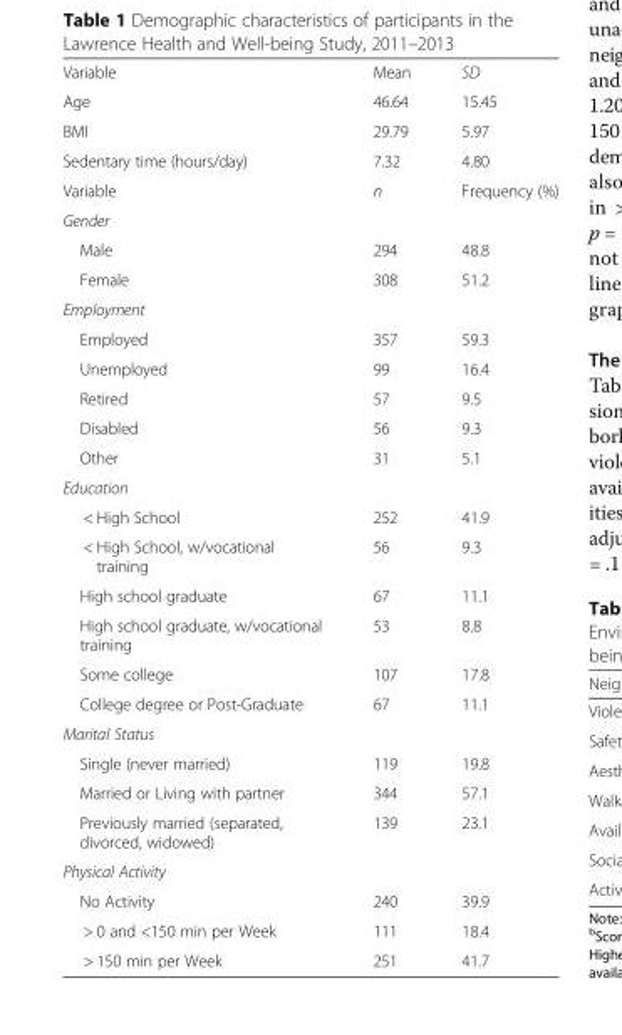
<table><tbody><tr><td>Variable</td><td>Mean</td><td>SD</td></tr><tr><td>Age</td><td>46.64</td><td>15.45</td></tr><tr><td>BMI</td><td>29.79</td><td>5.97</td></tr><tr><td>Sedentary time (hours/day)</td><td>7.32</td><td>4.80</td></tr><tr><td>Variable</td><td>n</td><td>Frequency (%)</td></tr><tr><td colspan="3">Gender</td></tr><tr><td>Male</td><td>294</td><td>48.8</td></tr><tr><td>Female</td><td>308</td><td>51.2</td></tr><tr><td colspan="3">Employment</td></tr><tr><td>Employed</td><td>357</td><td>59.3</td></tr><tr><td>Unemployed</td><td>99</td><td>16.4</td></tr><tr><td>Retired</td><td>57</td><td>9.5</td></tr><tr><td>Disabled</td><td>56</td><td>9.3</td></tr><tr><td>Other</td><td>31</td><td>5.1</td></tr><tr><td colspan="3">Education</td></tr><tr><td>&lt; High School</td><td>252</td><td>41.9</td></tr><tr><td>&lt; High School, w/vocational training</td><td>56</td><td>9.3</td></tr><tr><td>High school graduate</td><td>67</td><td>11.1</td></tr><tr><td>High school graduate, w/vocational training</td><td>53</td><td>8.8</td></tr><tr><td>Some college</td><td>107</td><td>17.8</td></tr><tr><td>College degree or Post-Graduate</td><td>67</td><td>11.1</td></tr><tr><td colspan="3">Marital Status</td></tr><tr><td>Single (never married)</td><td>119</td><td>19.8</td></tr><tr><td>Married or Living with partner</td><td>344</td><td>57.1</td></tr><tr><td>Previously married (separated, divorced, widowed)</td><td>139</td><td>23.1</td></tr><tr><td colspan="3">Physical Activity</td></tr><tr><td>No Activity</td><td>240</td><td>39.9</td></tr><tr><td>&gt; 0 and &lt;150 min per Week</td><td>111</td><td>18.4</td></tr><tr><td>&gt; 150 min per Week</td><td>251</td><td>41.7</td></tr></tbody></table>